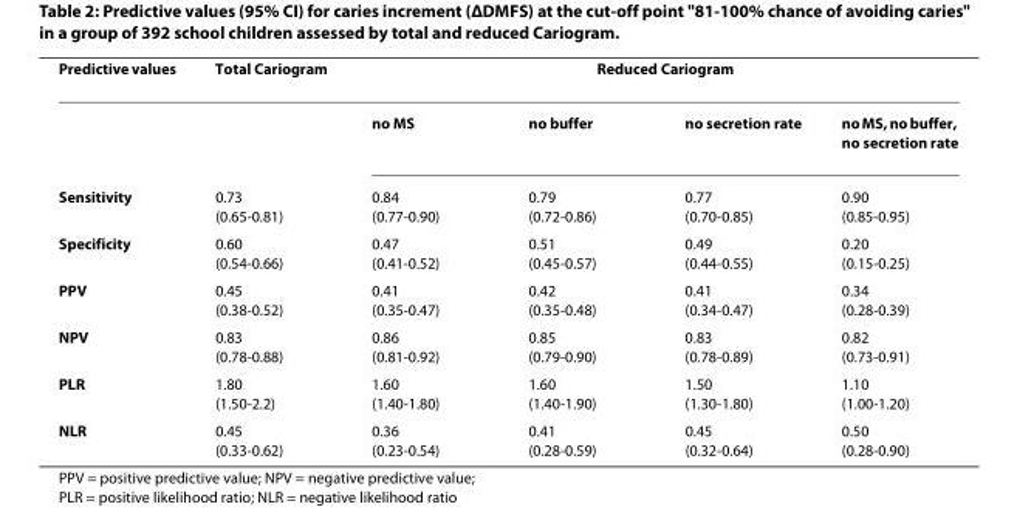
<table><thead><tr><td rowspan="2">Predictive values</td><td rowspan="2">Total Cariogram</td><td colspan="4">Reduced Cariogram</td></tr><tr><td>no MS</td><td>no buffer</td><td>no secretion rate</td><td>no MS, no buffer, no secretion rate</td></tr></thead><tbody><tr><td>Sensitivity</td><td>0.73 (0.65-0.81)</td><td>0.84 (0.77-0.90)</td><td>0.79 (0.72-0.86)</td><td>0.77 (0.70-0.85)</td><td>0.90 (0.85-0.95)</td></tr><tr><td>Specificity</td><td>0.60 (0.54-0.66)</td><td>0.47 (0.41-0.52)</td><td>0.51 (0.45-0.57)</td><td>0.49 (0.44-0.55)</td><td>0.20 (0.15-0.25)</td></tr><tr><td>PPV</td><td>0.45 (0.38-0.52)</td><td>0.41 (0.35-0.47)</td><td>0.42 (0.35-0.48)</td><td>0.41 (0.34-0.47)</td><td>0.34 (0.28-0.39)</td></tr><tr><td>NPV</td><td>0.83 (0.78-0.88)</td><td>0.86 (0.81-0.92)</td><td>0.85 (0.79-0.90)</td><td>0.83 (0.78-0.89)</td><td>0.82 (0.73-0.91)</td></tr><tr><td>PLR</td><td>1.80 (1.50-2.2)</td><td>1.60 (1.40-1.80)</td><td>1.60 (1.40-1.90)</td><td>1.50 (1.30-1.80)</td><td>1.10 (1.00-1.20)</td></tr><tr><td>NLR</td><td>0.45 (0.33-0.62)</td><td>0.36 (0.23-0.54)</td><td>0.41 (0.28-0.59)</td><td>0.45 (0.32-0.64)</td><td>0.50 (0.28-0.90)</td></tr></tbody></table>